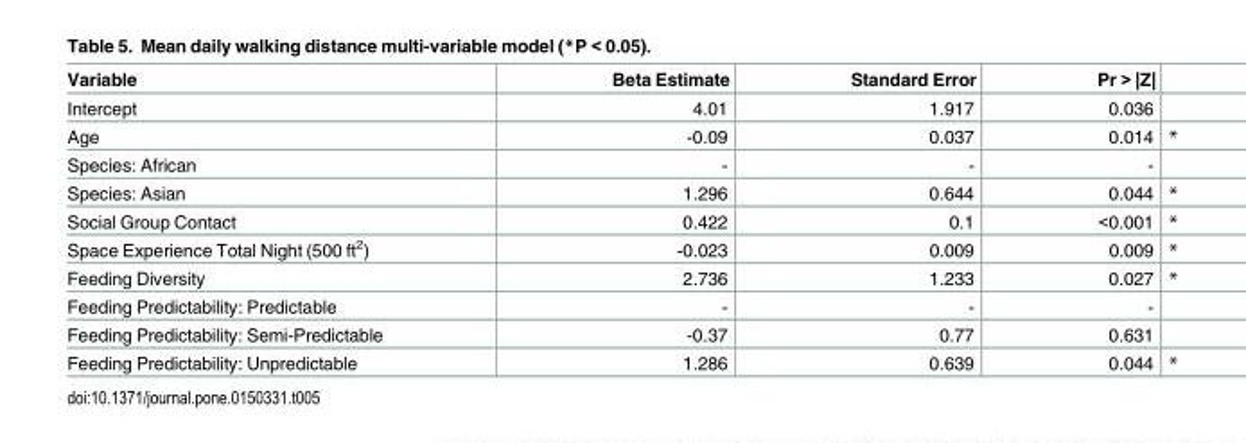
<table><thead><tr><td>Variable</td><td>Beta Estimate</td><td>Standard Error</td><td>Pr &gt; |Z|</td><td></td></tr></thead><tbody><tr><td>Intercept</td><td>4.01</td><td>1.917</td><td>0.036</td><td></td></tr><tr><td>Age</td><td>-0.09</td><td>0.037</td><td>0.014</td><td>*</td></tr><tr><td>Species: African</td><td>-</td><td>-</td><td>-</td><td></td></tr><tr><td>Species: Asian</td><td>1.296</td><td>0.644</td><td>0.044</td><td>*</td></tr><tr><td>Social Group Contact</td><td>0.422</td><td>0.1</td><td>&lt;0.001</td><td>*</td></tr><tr><td>Space Experience Total Night (500 ft<sup>2</sup>)</td><td>-0.023</td><td>0.009</td><td>0.009</td><td>*</td></tr><tr><td>Feeding Diversity</td><td>2.736</td><td>1.233</td><td>0.027</td><td>*</td></tr><tr><td>Feeding Predictability: Predictable</td><td>-</td><td>-</td><td>-</td><td></td></tr><tr><td>Feeding Predictability: Semi-Predictable</td><td>-0.37</td><td>0.77</td><td>0.631</td><td></td></tr><tr><td>Feeding Predictability: Unpredictable</td><td>1.286</td><td>0.639</td><td>0.044</td><td>*</td></tr></tbody></table>